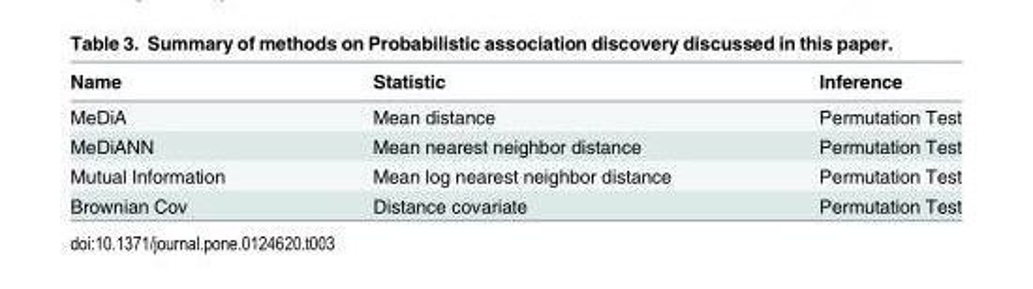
<table><thead><tr><td>Name</td><td>Statistic</td><td>Inference</td></tr></thead><tbody><tr><td>MeDiA</td><td>Mean distance</td><td>Permutation Test</td></tr><tr><td>MeDiANN</td><td>Mean nearest neighbor distance</td><td>Permutation Test</td></tr><tr><td>Mutual Information</td><td>Mean log nearest neighbor distance</td><td>Permutation Test</td></tr><tr><td>Brownian Cov</td><td>Distance covariate</td><td>Permutation Test</td></tr></tbody></table>